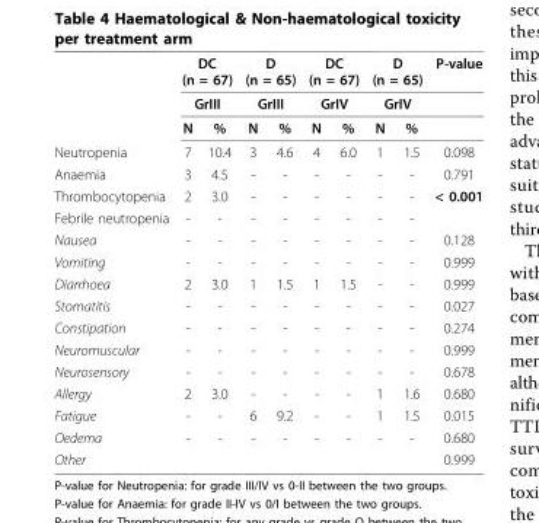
<table><thead><tr><td rowspan="3"></td><td rowspan="2" colspan="2">DC (n = 67) GrIII</td><td rowspan="2" colspan="2">D (n = 65) GrIII</td><td rowspan="2" colspan="2">DC (n = 67) GrIV</td><td rowspan="2" colspan="2">D (n = 65) GrIV</td><td rowspan="3">P-value</td></tr><tr></tr><tr><td>N</td><td>%</td><td>N</td><td>%</td><td>N</td><td>%</td><td>N</td><td>%</td></tr></thead><tbody><tr><td>Neutropenia</td><td>7</td><td>10.4</td><td>3</td><td>4.6</td><td>4</td><td>6.0</td><td>1</td><td>1.5</td><td>0.098</td></tr><tr><td>Anaemia</td><td>3</td><td>4.5</td><td>-</td><td>-</td><td>-</td><td>-</td><td>-</td><td>-</td><td>0.791</td></tr><tr><td>Thrombocytopenia</td><td>2</td><td>3.0</td><td>-</td><td>-</td><td>-</td><td>-</td><td>-</td><td>-</td><td>&lt; 0.001</td></tr><tr><td>Febrile neutropenia</td><td>-</td><td>-</td><td>-</td><td>-</td><td>-</td><td>-</td><td>-</td><td>-</td><td></td></tr><tr><td>Nausea</td><td>-</td><td>-</td><td>-</td><td>-</td><td>-</td><td>-</td><td>-</td><td>-</td><td>0.128</td></tr><tr><td>Vomiting</td><td>-</td><td>-</td><td>-</td><td>-</td><td>-</td><td>-</td><td>-</td><td>-</td><td>0.999</td></tr><tr><td>Diarrhoea</td><td>2</td><td>3.0</td><td>1</td><td>1.5</td><td>1</td><td>1.5</td><td>-</td><td>-</td><td>0.999</td></tr><tr><td>Stomatitis</td><td>-</td><td>-</td><td>-</td><td>-</td><td>-</td><td>-</td><td>-</td><td>-</td><td>0.027</td></tr><tr><td>Constipation</td><td>-</td><td>-</td><td>-</td><td>-</td><td>-</td><td>-</td><td>-</td><td>-</td><td>0.274</td></tr><tr><td>Neuromuscular</td><td>-</td><td>-</td><td>-</td><td>-</td><td>-</td><td>-</td><td>-</td><td>-</td><td>0.999</td></tr><tr><td>Neurosensory</td><td>-</td><td>-</td><td>-</td><td>-</td><td>-</td><td>-</td><td>-</td><td>-</td><td>0.678</td></tr><tr><td>Allergy</td><td>2</td><td>3.0</td><td>-</td><td>-</td><td>-</td><td>-</td><td>1</td><td>1.6</td><td>0.680</td></tr><tr><td>Fatigue</td><td>-</td><td>-</td><td>6</td><td>9.2</td><td>-</td><td>-</td><td>1</td><td>1.5</td><td>0.015</td></tr><tr><td>Oedema</td><td>-</td><td>-</td><td>-</td><td>-</td><td>-</td><td>-</td><td>-</td><td>-</td><td>0.680</td></tr><tr><td>Other</td><td></td><td></td><td></td><td></td><td></td><td></td><td></td><td></td><td>0.999</td></tr></tbody></table>